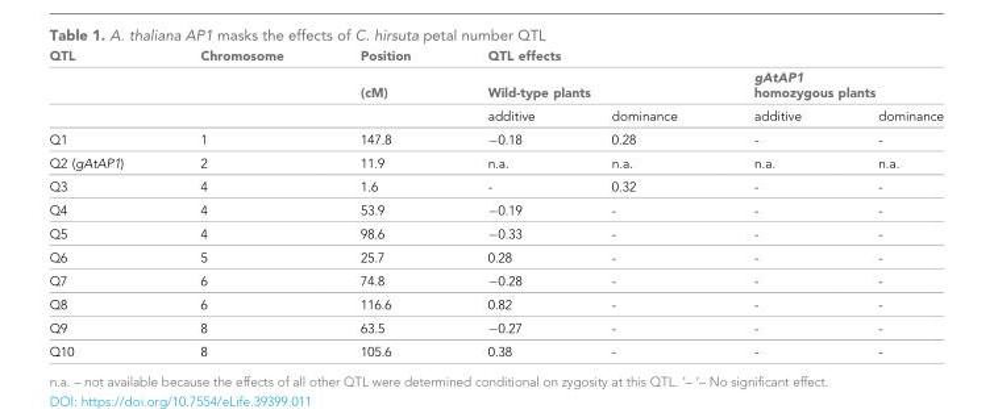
<table><thead><tr><td rowspan="3">QTL</td><td rowspan="3">Chromosome</td><td rowspan="3">Position (cM)</td><td colspan="4">QTL effects</td></tr><tr><td colspan="2">Wild-type plants</td><td colspan="2">gAtAP1 homozygous plants</td></tr><tr><td>additive</td><td>dominance</td><td>additive</td><td>dominance</td></tr></thead><tbody><tr><td>Q1</td><td>1</td><td>147.8</td><td>−0.18</td><td>0.28</td><td>-</td><td>-</td></tr><tr><td>Q2 (gAtAP1)</td><td>2</td><td>11.9</td><td>n.a.</td><td>n.a.</td><td>n.a.</td><td>n.a.</td></tr><tr><td>Q3</td><td>4</td><td>1.6</td><td>-</td><td>0.32</td><td>-</td><td>-</td></tr><tr><td>Q4</td><td>4</td><td>53.9</td><td>−0.19</td><td>-</td><td>-</td><td>-</td></tr><tr><td>Q5</td><td>4</td><td>98.6</td><td>−0.33</td><td>-</td><td>-</td><td>-</td></tr><tr><td>Q6</td><td>5</td><td>25.7</td><td>0.28</td><td>-</td><td>-</td><td>-</td></tr><tr><td>Q7</td><td>6</td><td>74.8</td><td>−0.28</td><td>-</td><td>-</td><td>-</td></tr><tr><td>Q8</td><td>6</td><td>116.6</td><td>0.82</td><td>-</td><td>-</td><td>-</td></tr><tr><td>Q9</td><td>8</td><td>63.5</td><td>−0.27</td><td>-</td><td>-</td><td>-</td></tr><tr><td>Q10</td><td>8</td><td>105.6</td><td>0.38</td><td>-</td><td>-</td><td>-</td></tr></tbody></table>